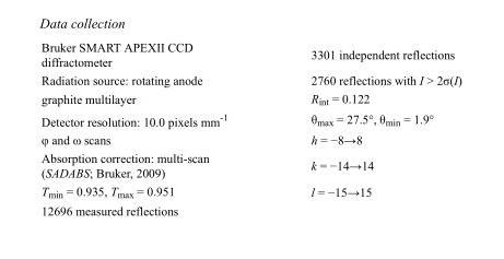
<table><tbody><tr><td>Bruker SMART APEXII CCD diffractometer</td><td>3301 independent reflections</td></tr><tr><td>Radiation source: rotating anode</td><td>2760 reflections with I &gt; 2σ(I)</td></tr><tr><td>graphite multilayer</td><td>R<sub>int</sub> = 0.122</td></tr><tr><td>Detector resolution: 10.0 pixels mm<sup>-1</sup></td><td>θ<sub>max</sub> = 27.5°, θ<sub>min</sub> = 1.9°</td></tr><tr><td>φ and ω scans</td><td>h = −8→8</td></tr><tr><td>Absorption correction: multi-scan (SADABS; Bruker, 2009)</td><td>k = −14→14</td></tr><tr><td>T<sub>min</sub> = 0.935, T<sub>max</sub> = 0.951</td><td>l = −15→15</td></tr><tr><td>12696 measured reflections</td><td></td></tr></tbody></table>